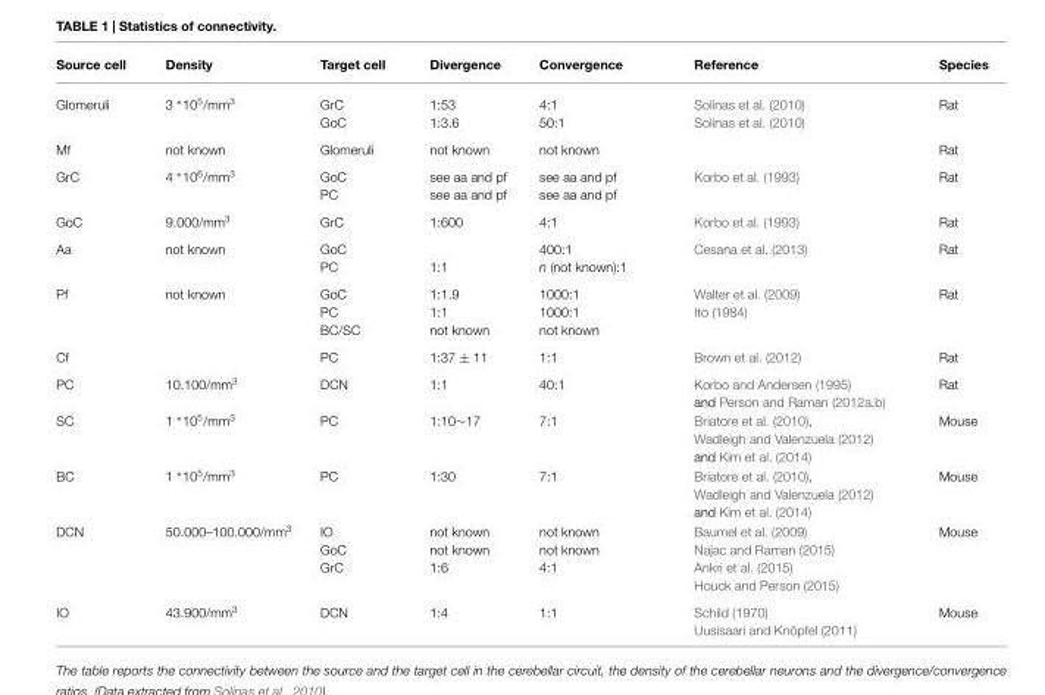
<table><thead><tr><td>Source cell</td><td>Density</td><td>Target cell</td><td>Divergence</td><td>Convergence</td><td>Reference</td><td>Species</td></tr></thead><tbody><tr><td rowspan="2">Glomeruli</td><td>3 ∗105/mm3</td><td>GrC</td><td>1:53</td><td>4:1</td><td>Solinas et al. (2010)</td><td>Rat</td></tr><tr><td></td><td>GoC</td><td>1:3.6</td><td>50:1</td><td>Solinas et al. (2010)</td><td></td></tr><tr><td>Mf</td><td>not known</td><td>Glomeruli</td><td>not known</td><td>not known</td><td></td><td>Rat</td></tr><tr><td rowspan="2">GrC</td><td>4 ∗106/mm3</td><td>GoC</td><td>see aa and pf</td><td>see aa and pf</td><td>Korbo et al. (1993)</td><td>Rat</td></tr><tr><td></td><td>PC</td><td>see aa and pf</td><td>see aa and pf</td><td></td><td></td></tr><tr><td>GoC</td><td>9.000/mm<sup>3</sup></td><td>GrC</td><td>1:600</td><td>4:1</td><td>Korbo et al. (1993)</td><td>Rat</td></tr><tr><td rowspan="2">Aa</td><td>not known</td><td>GoC</td><td></td><td>400:1</td><td>Cesana et al. (2013)</td><td>Rat</td></tr><tr><td></td><td>PC</td><td>1:1</td><td>n (not known):1</td><td></td><td></td></tr><tr><td rowspan="3">Pf</td><td>not known</td><td>GoC</td><td>1:1.9</td><td>1000:1</td><td>Walter et al. (2009)</td><td>Rat</td></tr><tr><td></td><td>PC</td><td>1:1</td><td>1000:1</td><td>Ito (1984)</td><td></td></tr><tr><td></td><td>BC/SC</td><td>not known</td><td>not known</td><td></td><td></td></tr><tr><td>Cf</td><td></td><td>PC</td><td>1:37 ± 11</td><td>1:1</td><td>Brown et al. (2012)</td><td>Rat</td></tr><tr><td>PC</td><td>10.100/mm<sup>3</sup></td><td>DCN</td><td>1:1</td><td>40:1</td><td>Korbo and Andersen (1995) and Person and Raman (2012a,b)</td><td>Rat</td></tr><tr><td>SC</td><td>1 ∗105/mm3</td><td>PC</td><td>1:10∼17</td><td>7:1</td><td>Briatore et al. (2010), Wadleigh and Valenzuela (2012) and Kim et al. (2014)</td><td>Mouse</td></tr><tr><td>BC</td><td>1 ∗105/mm3</td><td>PC</td><td>1:30</td><td>7:1</td><td>Briatore et al. (2010), Wadleigh and Valenzuela (2012) and Kim et al. (2014)</td><td>Mouse</td></tr><tr><td rowspan="4">DCN</td><td>50.000–100.000/mm<sup>3</sup></td><td>IO</td><td>not known</td><td>not known</td><td>Baumel et al. (2009)</td><td>Mouse</td></tr><tr><td></td><td>GoC</td><td>not known</td><td>not known</td><td>Najac and Raman (2015)</td><td></td></tr><tr><td></td><td>GrC</td><td>1:6</td><td>4:1</td><td>Ankri et al. (2015)</td><td></td></tr><tr><td></td><td></td><td></td><td></td><td>Houck and Person (2015)</td><td></td></tr><tr><td rowspan="2">IO</td><td>43.900/mm<sup>3</sup></td><td>DCN</td><td>1:4</td><td>1:1</td><td>Schild (1970)</td><td>Mouse</td></tr><tr><td></td><td></td><td></td><td></td><td>Uusisaari and Knöpfel (2011)</td><td></td></tr></tbody></table>